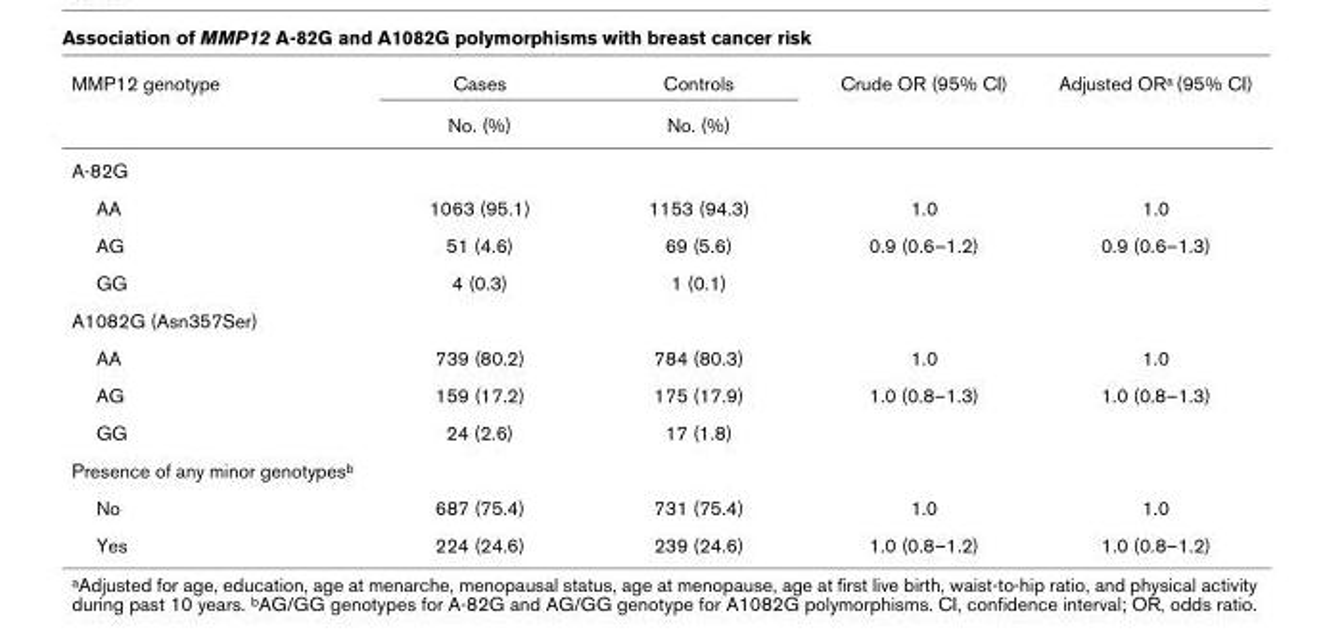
<table><thead><tr><td rowspan="2">MMP12 genotype</td><td rowspan="2">Cases No. (%)</td><td rowspan="2">Controls No. (%)</td><td rowspan="2">Crude OR (95% CI)</td><td rowspan="2">Adjusted ORa (95% CI)</td></tr><tr></tr></thead><tbody><tr><td colspan="5">A-82G</td></tr><tr><td>AA</td><td>1063 (95.1)</td><td>1153 (94.3)</td><td>1.0</td><td>1.0</td></tr><tr><td>AG</td><td>51 (4.6)</td><td>69 (5.6)</td><td>0.9 (0.6–1.2)</td><td>0.9 (0.6–1.3)</td></tr><tr><td>GG</td><td>4 (0.3)</td><td>1 (0.1)</td><td></td><td></td></tr><tr><td colspan="5">A1082G (Asn357Ser)</td></tr><tr><td>AA</td><td>739 (80.2)</td><td>784 (80.3)</td><td>1.0</td><td>1.0</td></tr><tr><td>AG</td><td>159 (17.2)</td><td>175 (17.9)</td><td>1.0 (0.8–1.3)</td><td>1.0 (0.8–1.3)</td></tr><tr><td>GG</td><td>24 (2.6)</td><td>17 (1.8)</td><td></td><td></td></tr><tr><td colspan="5">Presence of any minor genotypesb</td></tr><tr><td>No</td><td>687 (75.4)</td><td>731 (75.4)</td><td>1.0</td><td>1.0</td></tr><tr><td>Yes</td><td>224 (24.6)</td><td>239 (24.6)</td><td>1.0 (0.8–1.2)</td><td>1.0 (0.8–1.2)</td></tr></tbody></table>